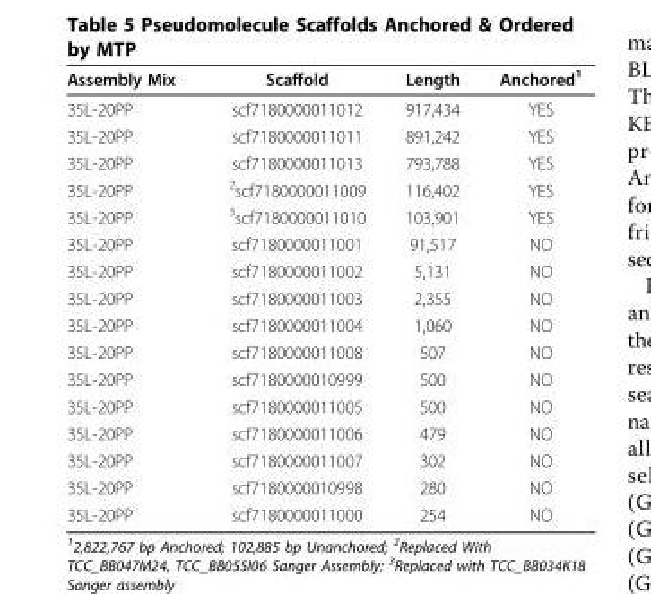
<table><thead><tr><td>Assembly Mix</td><td>Scaffold</td><td>Length</td><td>Anchored<sup>1</sup></td></tr></thead><tbody><tr><td>35L-20PP</td><td>scf7180000011012</td><td>917,434</td><td>YES</td></tr><tr><td>35L-20PP</td><td>scf7180000011011</td><td>891,242</td><td>YES</td></tr><tr><td>35L-20PP</td><td>scf7180000011013</td><td>793,788</td><td>YES</td></tr><tr><td>35L-20PP</td><td><sup>2</sup>scf7180000011009</td><td>116,402</td><td>YES</td></tr><tr><td>35L-20PP</td><td><sup>3</sup>scf7180000011010</td><td>103,901</td><td>YES</td></tr><tr><td>35L-20PP</td><td>scf7180000011001</td><td>91,517</td><td>NO</td></tr><tr><td>35L-20PP</td><td>scf7180000011002</td><td>5,131</td><td>NO</td></tr><tr><td>35L-20PP</td><td>scf7180000011003</td><td>2,355</td><td>NO</td></tr><tr><td>35L-20PP</td><td>scf7180000011004</td><td>1,060</td><td>NO</td></tr><tr><td>35L-20PP</td><td>scf7180000011008</td><td>507</td><td>NO</td></tr><tr><td>35L-20PP</td><td>scf7180000010999</td><td>500</td><td>NO</td></tr><tr><td>35L-20PP</td><td>scf7180000011005</td><td>500</td><td>NO</td></tr><tr><td>35L-20PP</td><td>scf7180000011006</td><td>479</td><td>NO</td></tr><tr><td>35L-20PP</td><td>scf7180000011007</td><td>302</td><td>NO</td></tr><tr><td>35L-20PP</td><td>scf7180000010998</td><td>280</td><td>NO</td></tr><tr><td>35L-20PP</td><td>scf7180000011000</td><td>254</td><td>NO</td></tr></tbody></table>